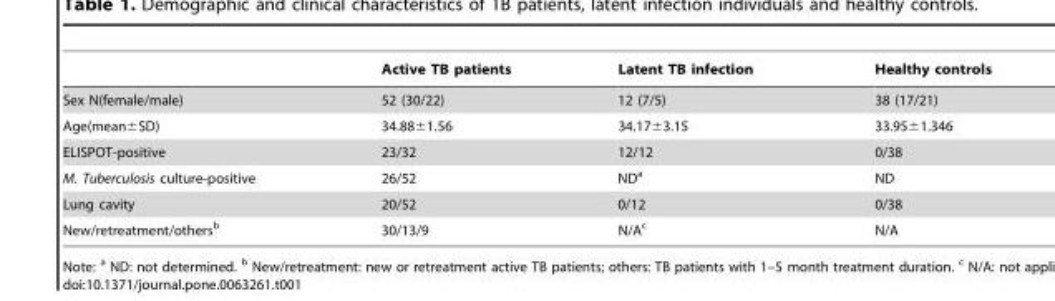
<table><thead><tr><td></td><td>Active TB patients</td><td>Latent TB infection</td><td>Healthy controls</td></tr></thead><tbody><tr><td>Sex N(female/male)</td><td>52 (30/22)</td><td>12 (7/5)</td><td>38 (17/21)</td></tr><tr><td>Age(mean±SD)</td><td>34.88±1.56</td><td>34.17±3.15</td><td>33.95±1.346</td></tr><tr><td>ELISPOT-positive</td><td>23/32</td><td>12/12</td><td>0/38</td></tr><tr><td>M. Tuberculosis culture-positive</td><td>26/52</td><td>ND<sup>a</sup></td><td>ND</td></tr><tr><td>Lung cavity</td><td>20/52</td><td>0/12</td><td>0/38</td></tr><tr><td>New/retreatment/others<sup>b</sup></td><td>30/13/9</td><td>N/A<sup>c</sup></td><td>N/A</td></tr></tbody></table>